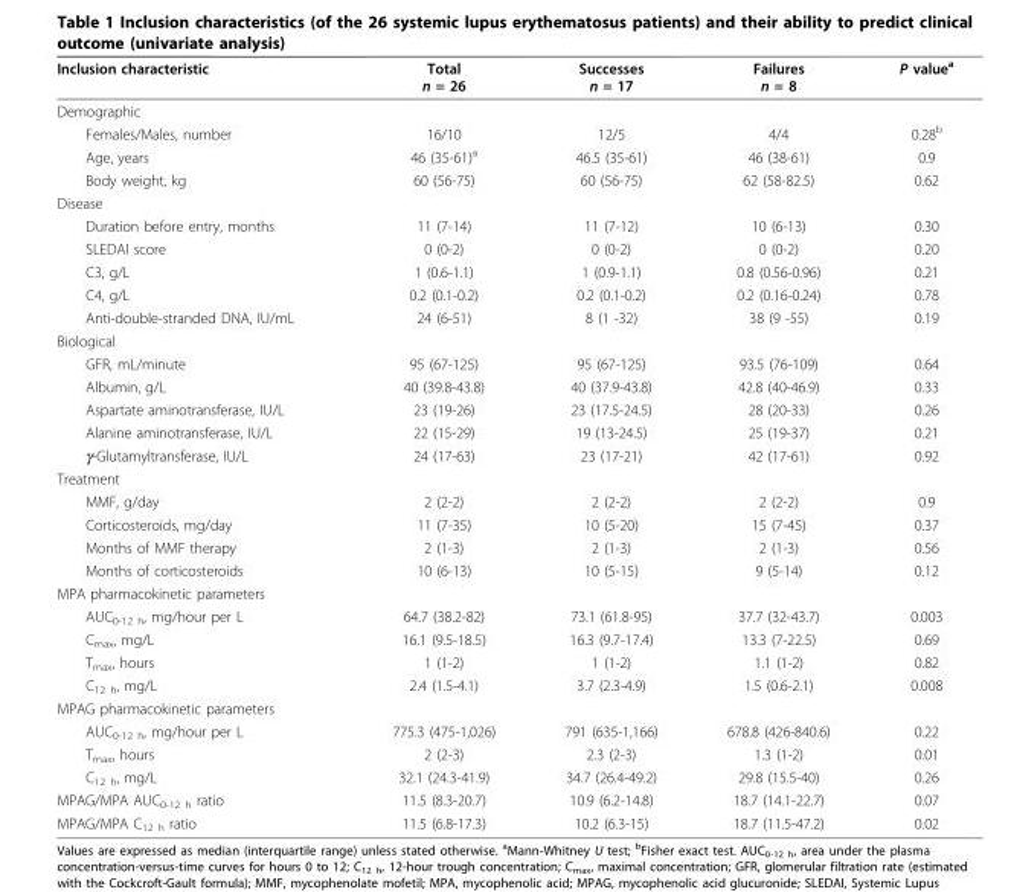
<table><thead><tr><td>Inclusion characteristic</td><td>Total n = 26</td><td>Successes n = 17</td><td>Failures n = 8</td><td>P value<sup>a</sup></td></tr></thead><tbody><tr><td colspan="5">Demographic</td></tr><tr><td>Females/Males, number</td><td>16/10</td><td>12/5</td><td>4/4</td><td>0.28<sup>b</sup></td></tr><tr><td>Age, years</td><td>46 (35-61)<sup>a</sup></td><td>46.5 (35-61)</td><td>46 (38-61)</td><td>0.9</td></tr><tr><td>Body weight, kg</td><td>60 (56-75)</td><td>60 (56-75)</td><td>62 (58-82.5)</td><td>0.62</td></tr><tr><td colspan="5">Disease</td></tr><tr><td>Duration before entry, months</td><td>11 (7-14)</td><td>11 (7-12)</td><td>10 (6-13)</td><td>0.30</td></tr><tr><td>SLEDAI score</td><td>0 (0-2)</td><td>0 (0-2)</td><td>0 (0-2)</td><td>0.20</td></tr><tr><td>C3, g/L</td><td>1 (0.6-1.1)</td><td>1 (0.9-1.1)</td><td>0.8 (0.56-0.96)</td><td>0.21</td></tr><tr><td>C4, g/L</td><td>0.2 (0.1-0.2)</td><td>0.2 (0.1-0.2)</td><td>0.2 (0.16-0.24)</td><td>0.78</td></tr><tr><td>Anti-double-stranded DNA, IU/mL</td><td>24 (6-51)</td><td>8 (1 -32)</td><td>38 (9 -55)</td><td>0.19</td></tr><tr><td colspan="5">Biological</td></tr><tr><td>GFR, mL/minute</td><td>95 (67-125)</td><td>95 (67-125)</td><td>93.5 (76-109)</td><td>0.64</td></tr><tr><td>Albumin, g/L</td><td>40 (39.8-43.8)</td><td>40 (37.9-43.8)</td><td>42.8 (40-46.9)</td><td>0.33</td></tr><tr><td>Aspartate aminotransferase, IU/L</td><td>23 (19-26)</td><td>23 (17.5-24.5)</td><td>28 (20-33)</td><td>0.26</td></tr><tr><td>Alanine aminotransferase, IU/L</td><td>22 (15-29)</td><td>19 (13-24.5)</td><td>25 (19-37)</td><td>0.21</td></tr><tr><td>γ-Glutamyltransferase, IU/L</td><td>24 (17-63)</td><td>23 (17-21)</td><td>42 (17-61)</td><td>0.92</td></tr><tr><td colspan="5">Treatment</td></tr><tr><td>MMF, g/day</td><td>2 (2-2)</td><td>2 (2-2)</td><td>2 (2-2)</td><td>0.9</td></tr><tr><td>Corticosteroids, mg/day</td><td>11 (7-35)</td><td>10 (5-20)</td><td>15 (7-45)</td><td>0.37</td></tr><tr><td>Months of MMF therapy</td><td>2 (1-3)</td><td>2 (1-3)</td><td>2 (1-3)</td><td>0.56</td></tr><tr><td>Months of corticosteroids</td><td>10 (6-13)</td><td>10 (5-15)</td><td>9 (5-14)</td><td>0.12</td></tr><tr><td colspan="5">MPA pharmacokinetic parameters</td></tr><tr><td>AUC<sub>0-12 h</sub>, mg/hour per L</td><td>64.7 (38.2-82)</td><td>73.1 (61.8-95)</td><td>37.7 (32-43.7)</td><td>0.003</td></tr><tr><td>C<sub>max</sub>, mg/L</td><td>16.1 (9.5-18.5)</td><td>16.3 (9.7-17.4)</td><td>13.3 (7-22.5)</td><td>0.69</td></tr><tr><td>T<sub>max</sub>, hours</td><td>1 (1-2)</td><td>1 (1-2)</td><td>1.1 (1-2)</td><td>0.82</td></tr><tr><td>C<sub>12 h</sub>, mg/L</td><td>2.4 (1.5-4.1)</td><td>3.7 (2.3-4.9)</td><td>1.5 (0.6-2.1)</td><td>0.008</td></tr><tr><td colspan="5">MPAG pharmacokinetic parameters</td></tr><tr><td>AUC<sub>0-12 h</sub>, mg/hour per L</td><td>775.3 (475-1,026)</td><td>791 (635-1,166)</td><td>678.8 (426-840.6)</td><td>0.22</td></tr><tr><td>T<sub>max</sub>, hours</td><td>2 (2-3)</td><td>2.3 (2-3)</td><td>1.3 (1-2)</td><td>0.01</td></tr><tr><td>C<sub>12 h</sub>, mg/L</td><td>32.1 (24.3-41.9)</td><td>34.7 (26.4-49.2)</td><td>29.8 (15.5-40)</td><td>0.26</td></tr><tr><td>MPAG/MPA AUC<sub>0-12 h</sub> ratio</td><td>11.5 (8.3-20.7)</td><td>10.9 (6.2-14.8)</td><td>18.7 (14.1-22.7)</td><td>0.07</td></tr><tr><td>MPAG/MPA C<sub>12 h</sub> ratio</td><td>11.5 (6.8-17.3)</td><td>10.2 (6.3-15)</td><td>18.7 (11.5-47.2)</td><td>0.02</td></tr></tbody></table>